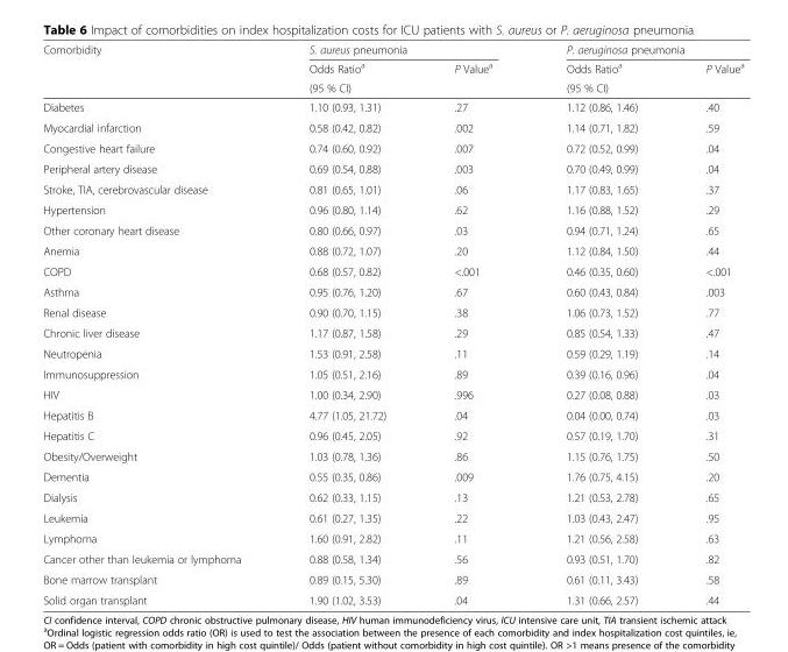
<table><thead><tr><td rowspan="3">Comorbidity</td><td colspan="2">S. aureus pneumonia</td><td colspan="2">P. aeruginosa pneumonia</td></tr><tr><td rowspan="2">Odds Ratio<sup>a</sup> (95 % CI)</td><td rowspan="2">P Value<sup>a</sup></td><td rowspan="2">Odds Ratio<sup>a</sup> (95 % CI)</td><td rowspan="2">P Value<sup>a</sup></td></tr><tr></tr></thead><tbody><tr><td>Diabetes</td><td>1.10 (0.93, 1.31)</td><td>.27</td><td>1.12 (0.86, 1.46)</td><td>.40</td></tr><tr><td>Myocardial infarction</td><td>0.58 (0.42, 0.82)</td><td>.002</td><td>1.14 (0.71, 1.82)</td><td>.59</td></tr><tr><td>Congestive heart failure</td><td>0.74 (0.60, 0.92)</td><td>.007</td><td>0.72 (0.52, 0.99)</td><td>.04</td></tr><tr><td>Peripheral artery disease</td><td>0.69 (0.54, 0.88)</td><td>.003</td><td>0.70 (0.49, 0.99)</td><td>.04</td></tr><tr><td>Stroke, TIA, cerebrovascular disease</td><td>0.81 (0.65, 1.01)</td><td>.06</td><td>1.17 (0.83, 1.65)</td><td>.37</td></tr><tr><td>Hypertension</td><td>0.96 (0.80, 1.14)</td><td>.62</td><td>1.16 (0.88, 1.52)</td><td>.29</td></tr><tr><td>Other coronary heart disease</td><td>0.80 (0.66, 0.97)</td><td>.03</td><td>0.94 (0.71, 1.24)</td><td>.65</td></tr><tr><td>Anemia</td><td>0.88 (0.72, 1.07)</td><td>.20</td><td>1.12 (0.84, 1.50)</td><td>.44</td></tr><tr><td>COPD</td><td>0.68 (0.57, 0.82)</td><td>&lt;.001</td><td>0.46 (0.35, 0.60)</td><td>&lt;.001</td></tr><tr><td>Asthma</td><td>0.95 (0.76, 1.20)</td><td>.67</td><td>0.60 (0.43, 0.84)</td><td>.003</td></tr><tr><td>Renal disease</td><td>0.90 (0.70, 1.15)</td><td>.38</td><td>1.06 (0.73, 1.52)</td><td>.77</td></tr><tr><td>Chronic liver disease</td><td>1.17 (0.87, 1.58)</td><td>.29</td><td>0.85 (0.54, 1.33)</td><td>.47</td></tr><tr><td>Neutropenia</td><td>1.53 (0.91, 2.58)</td><td>.11</td><td>0.59 (0.29, 1.19)</td><td>.14</td></tr><tr><td>Immunosuppression</td><td>1.05 (0.51, 2.16)</td><td>.89</td><td>0.39 (0.16, 0.96)</td><td>.04</td></tr><tr><td>HIV</td><td>1.00 (0.34, 2.90)</td><td>.996</td><td>0.27 (0.08, 0.88)</td><td>.03</td></tr><tr><td>Hepatitis B</td><td>4.77 (1.05, 21.72)</td><td>.04</td><td>0.04 (0.00, 0.74)</td><td>.03</td></tr><tr><td>Hepatitis C</td><td>0.96 (0.45, 2.05)</td><td>.92</td><td>0.57 (0.19, 1.70)</td><td>.31</td></tr><tr><td>Obesity/Overweight</td><td>1.03 (0.78, 1.36)</td><td>.86</td><td>1.15 (0.76, 1.75)</td><td>.50</td></tr><tr><td>Dementia</td><td>0.55 (0.35, 0.86)</td><td>.009</td><td>1.76 (0.75, 4.15)</td><td>.20</td></tr><tr><td>Dialysis</td><td>0.62 (0.33, 1.15)</td><td>.13</td><td>1.21 (0.53, 2.78)</td><td>.65</td></tr><tr><td>Leukemia</td><td>0.61 (0.27, 1.35)</td><td>.22</td><td>1.03 (0.43, 2.47)</td><td>.95</td></tr><tr><td>Lymphoma</td><td>1.60 (0.91, 2.82)</td><td>.11</td><td>1.21 (0.56, 2.58)</td><td>.63</td></tr><tr><td>Cancer other than leukemia or lymphoma</td><td>0.88 (0.58, 1.34)</td><td>.56</td><td>0.93 (0.51, 1.70)</td><td>.82</td></tr><tr><td>Bone marrow transplant</td><td>0.89 (0.15, 5.30)</td><td>.89</td><td>0.61 (0.11, 3.43)</td><td>.58</td></tr><tr><td>Solid organ transplant</td><td>1.90 (1.02, 3.53)</td><td>.04</td><td>1.31 (0.66, 2.57)</td><td>.44</td></tr></tbody></table>